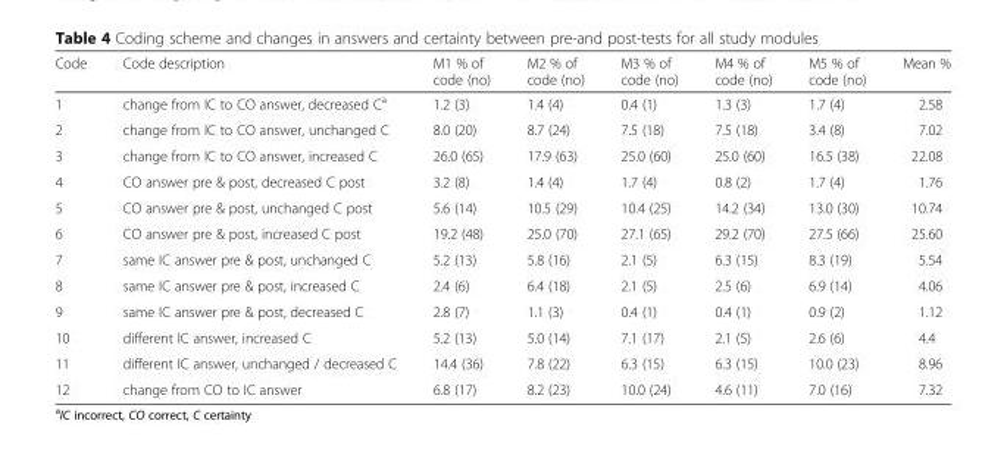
<table><thead><tr><td>Code</td><td>Code description</td><td>M1 % of code (no)</td><td>M2 % of code (no)</td><td>M3 % of code (no)</td><td>M4 % of code (no)</td><td>M5 % of code (no)</td><td>Mean %</td></tr></thead><tbody><tr><td>1</td><td>change from IC to CO answer, decreased C<sup>a</sup></td><td>1.2 (3)</td><td>1.4 (4)</td><td>0.4 (1)</td><td>1.3 (3)</td><td>1.7 (4)</td><td>2.58</td></tr><tr><td>2</td><td>change from IC to CO answer, unchanged C</td><td>8.0 (20)</td><td>8.7 (24)</td><td>7.5 (18)</td><td>7.5 (18)</td><td>3.4 (8)</td><td>7.02</td></tr><tr><td>3</td><td>change from IC to CO answer, increased C</td><td>26.0 (65)</td><td>17.9 (63)</td><td>25.0 (60)</td><td>25.0 (60)</td><td>16.5 (38)</td><td>22.08</td></tr><tr><td>4</td><td>CO answer pre &amp; post, decreased C post</td><td>3.2 (8)</td><td>1.4 (4)</td><td>1.7 (4)</td><td>0.8 (2)</td><td>1.7 (4)</td><td>1.76</td></tr><tr><td>5</td><td>CO answer pre &amp; post, unchanged C post</td><td>5.6 (14)</td><td>10.5 (29)</td><td>10.4 (25)</td><td>14.2 (34)</td><td>13.0 (30)</td><td>10.74</td></tr><tr><td>6</td><td>CO answer pre &amp; post, increased C post</td><td>19.2 (48)</td><td>25.0 (70)</td><td>27.1 (65)</td><td>29.2 (70)</td><td>27.5 (66)</td><td>25.60</td></tr><tr><td>7</td><td>same IC answer pre &amp; post, unchanged C</td><td>5.2 (13)</td><td>5.8 (16)</td><td>2.1 (5)</td><td>6.3 (15)</td><td>8.3 (19)</td><td>5.54</td></tr><tr><td>8</td><td>same IC answer pre &amp; post, increased C</td><td>2.4 (6)</td><td>6.4 (18)</td><td>2.1 (5)</td><td>2.5 (6)</td><td>6.9 (14)</td><td>4.06</td></tr><tr><td>9</td><td>same IC answer pre &amp; post, decreased C</td><td>2.8 (7)</td><td>1.1 (3)</td><td>0.4 (1)</td><td>0.4 (1)</td><td>0.9 (2)</td><td>1.12</td></tr><tr><td>10</td><td>different IC answer, increased C</td><td>5.2 (13)</td><td>5.0 (14)</td><td>7.1 (17)</td><td>2.1 (5)</td><td>2.6 (6)</td><td>4.4</td></tr><tr><td>11</td><td>different IC answer, unchanged / decreased C</td><td>14.4 (36)</td><td>7.8 (22)</td><td>6.3 (15)</td><td>6.3 (15)</td><td>10.0 (23)</td><td>8.96</td></tr><tr><td>12</td><td>change from CO to IC answer</td><td>6.8 (17)</td><td>8.2 (23)</td><td>10.0 (24)</td><td>4.6 (11)</td><td>7.0 (16)</td><td>7.32</td></tr></tbody></table>